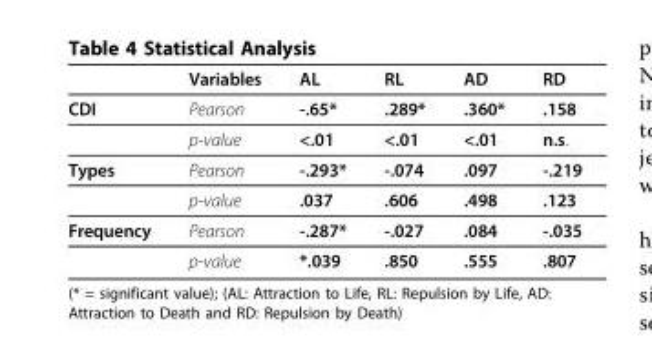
<table><thead><tr><td></td><td>Variables</td><td>AL</td><td>RL</td><td>AD</td><td>RD</td></tr></thead><tbody><tr><td rowspan="2">CDI</td><td>Pearson</td><td>-.65*</td><td>.289*</td><td>.360*</td><td>.158</td></tr><tr><td>p-value</td><td>&lt;.01</td><td>&lt;.01</td><td>&lt;.01</td><td>n.s.</td></tr><tr><td rowspan="2">Types</td><td>Pearson</td><td>-.293*</td><td>-.074</td><td>.097</td><td>-.219</td></tr><tr><td>p-value</td><td>.037</td><td>.606</td><td>.498</td><td>.123</td></tr><tr><td rowspan="2">Frequency</td><td>Pearson</td><td>-.287*</td><td>-.027</td><td>.084</td><td>-.035</td></tr><tr><td>p-value</td><td>*.039</td><td>.850</td><td>.555</td><td>.807</td></tr></tbody></table>